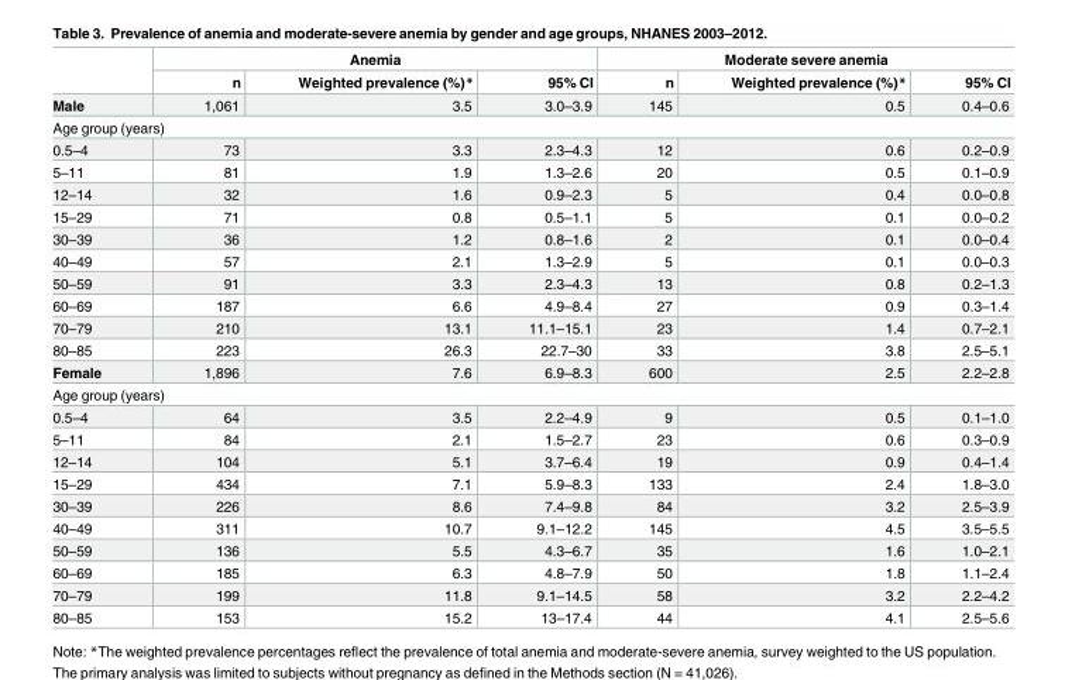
<table><thead><tr><td rowspan="2"></td><td colspan="3">Anemia</td><td colspan="3">Moderate severe anemia</td></tr><tr><td>n</td><td>Weighted prevalence (%)*</td><td>95% CI</td><td>n</td><td>Weighted prevalence (%)*</td><td>95% CI</td></tr></thead><tbody><tr><td>Male</td><td>1,061</td><td>3.5</td><td>3.0–3.9</td><td>145</td><td>0.5</td><td>0.4–0.6</td></tr><tr><td colspan="7">Age group (years)</td></tr><tr><td>0.5–4</td><td>73</td><td>3.3</td><td>2.3–4.3</td><td>12</td><td>0.6</td><td>0.2–0.9</td></tr><tr><td>5–11</td><td>81</td><td>1.9</td><td>1.3–2.6</td><td>20</td><td>0.5</td><td>0.1–0.9</td></tr><tr><td>12–14</td><td>32</td><td>1.6</td><td>0.9–2.3</td><td>5</td><td>0.4</td><td>0.0–0.8</td></tr><tr><td>15–29</td><td>71</td><td>0.8</td><td>0.5–1.1</td><td>5</td><td>0.1</td><td>0.0–0.2</td></tr><tr><td>30–39</td><td>36</td><td>1.2</td><td>0.8–1.6</td><td>2</td><td>0.1</td><td>0.0–0.4</td></tr><tr><td>40–49</td><td>57</td><td>2.1</td><td>1.3–2.9</td><td>5</td><td>0.1</td><td>0.0–0.3</td></tr><tr><td>50–59</td><td>91</td><td>3.3</td><td>2.3–4.3</td><td>13</td><td>0.8</td><td>0.2–1.3</td></tr><tr><td>60–69</td><td>187</td><td>6.6</td><td>4.9–8.4</td><td>27</td><td>0.9</td><td>0.3–1.4</td></tr><tr><td>70–79</td><td>210</td><td>13.1</td><td>11.1–15.1</td><td>23</td><td>1.4</td><td>0.7–2.1</td></tr><tr><td>80–85</td><td>223</td><td>26.3</td><td>22.7–30</td><td>33</td><td>3.8</td><td>2.5–5.1</td></tr><tr><td>Female</td><td>1,896</td><td>7.6</td><td>6.9–8.3</td><td>600</td><td>2.5</td><td>2.2–2.8</td></tr><tr><td colspan="7">Age group (years)</td></tr><tr><td>0.5–4</td><td>64</td><td>3.5</td><td>2.2–4.9</td><td>9</td><td>0.5</td><td>0.1–1.0</td></tr><tr><td>5–11</td><td>84</td><td>2.1</td><td>1.5–2.7</td><td>23</td><td>0.6</td><td>0.3–0.9</td></tr><tr><td>12–14</td><td>104</td><td>5.1</td><td>3.7–6.4</td><td>19</td><td>0.9</td><td>0.4–1.4</td></tr><tr><td>15–29</td><td>434</td><td>7.1</td><td>5.9–8.3</td><td>133</td><td>2.4</td><td>1.8–3.0</td></tr><tr><td>30–39</td><td>226</td><td>8.6</td><td>7.4–9.8</td><td>84</td><td>3.2</td><td>2.5–3.9</td></tr><tr><td>40–49</td><td>311</td><td>10.7</td><td>9.1–12.2</td><td>145</td><td>4.5</td><td>3.5–5.5</td></tr><tr><td>50–59</td><td>136</td><td>5.5</td><td>4.3–6.7</td><td>35</td><td>1.6</td><td>1.0–2.1</td></tr><tr><td>60–69</td><td>185</td><td>6.3</td><td>4.8–7.9</td><td>50</td><td>1.8</td><td>1.1–2.4</td></tr><tr><td>70–79</td><td>199</td><td>11.8</td><td>9.1–14.5</td><td>58</td><td>3.2</td><td>2.2–4.2</td></tr><tr><td>80–85</td><td>153</td><td>15.2</td><td>13–17.4</td><td>44</td><td>4.1</td><td>2.5–5.6</td></tr></tbody></table>